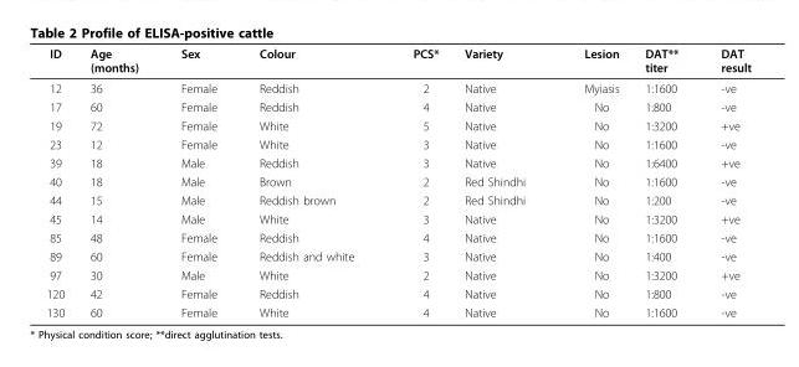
<table><thead><tr><td>ID</td><td>Age (months)</td><td>Sex</td><td>Colour</td><td>PCS*</td><td>Variety</td><td>Lesion</td><td>DAT** titer</td><td>DAT result</td></tr></thead><tbody><tr><td>12</td><td>36</td><td>Female</td><td>Reddish</td><td>2</td><td>Native</td><td>Myiasis</td><td>1:1600</td><td>-ve</td></tr><tr><td>17</td><td>60</td><td>Female</td><td>Reddish</td><td>4</td><td>Native</td><td>No</td><td>1:800</td><td>-ve</td></tr><tr><td>19</td><td>72</td><td>Female</td><td>White</td><td>5</td><td>Native</td><td>No</td><td>1:3200</td><td>+ve</td></tr><tr><td>23</td><td>12</td><td>Female</td><td>White</td><td>3</td><td>Native</td><td>No</td><td>1:1600</td><td>-ve</td></tr><tr><td>39</td><td>18</td><td>Male</td><td>Reddish</td><td>3</td><td>Native</td><td>No</td><td>1:6400</td><td>+ve</td></tr><tr><td>40</td><td>18</td><td>Male</td><td>Brown</td><td>2</td><td>Red Shindhi</td><td>No</td><td>1:1600</td><td>-ve</td></tr><tr><td>44</td><td>15</td><td>Male</td><td>Reddish brown</td><td>2</td><td>Red Shindhi</td><td>No</td><td>1:200</td><td>-ve</td></tr><tr><td>45</td><td>14</td><td>Male</td><td>White</td><td>3</td><td>Native</td><td>No</td><td>1:3200</td><td>+ve</td></tr><tr><td>85</td><td>48</td><td>Female</td><td>Reddish</td><td>4</td><td>Native</td><td>No</td><td>1:1600</td><td>-ve</td></tr><tr><td>89</td><td>60</td><td>Female</td><td>Reddish and white</td><td>3</td><td>Native</td><td>No</td><td>1:400</td><td>-ve</td></tr><tr><td>97</td><td>30</td><td>Male</td><td>White</td><td>2</td><td>Native</td><td>No</td><td>1:3200</td><td>+ve</td></tr><tr><td>120</td><td>42</td><td>Female</td><td>Reddish</td><td>4</td><td>Native</td><td>No</td><td>1:800</td><td>-ve</td></tr><tr><td>130</td><td>60</td><td>Female</td><td>White</td><td>4</td><td>Native</td><td>No</td><td>1:1600</td><td>-ve</td></tr></tbody></table>